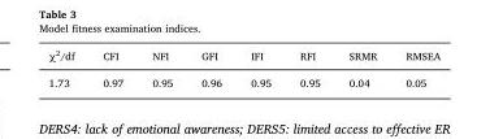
<table><thead><tr><td>χ<sup>2</sup>/df</td><td>CFI</td><td>NFI</td><td>GFI</td><td>IFI</td><td>RFI</td><td>SRMR</td><td>RMSEA</td></tr></thead><tbody><tr><td>1.73</td><td>0.97</td><td>0.95</td><td>0.96</td><td>0.95</td><td>0.95</td><td>0.04</td><td>0.05</td></tr></tbody></table>